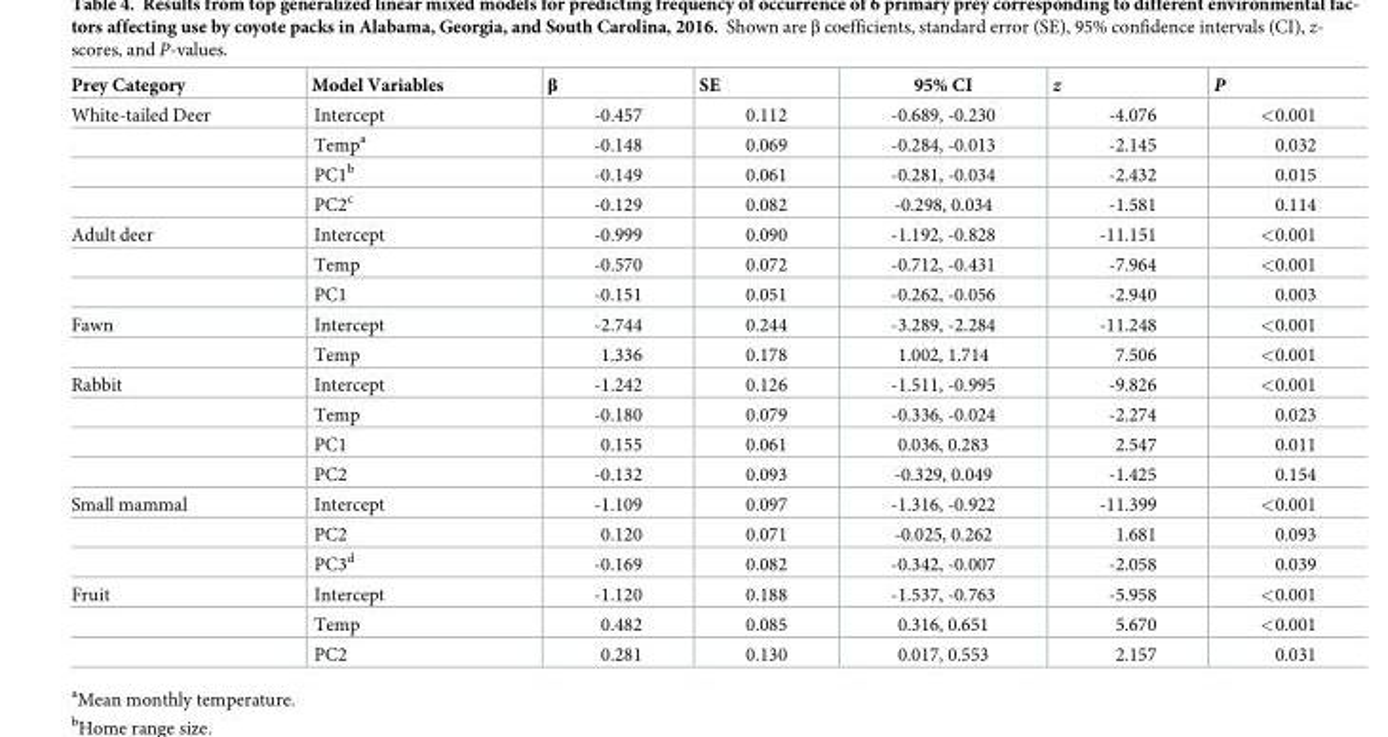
<table><thead><tr><td>Prey Category</td><td>Model Variables</td><td>β</td><td>SE</td><td>95% CI</td><td>z</td><td>P</td></tr></thead><tbody><tr><td rowspan="4">White-tailed Deer</td><td>Intercept</td><td>-0.457</td><td>0.112</td><td>-0.689, -0.230</td><td>-4.076</td><td>&lt;0.001</td></tr><tr><td>Temp<sup>a</sup></td><td>-0.148</td><td>0.069</td><td>-0.284, -0.013</td><td>-2.145</td><td>0.032</td></tr><tr><td>PC1<sup>b</sup></td><td>-0.149</td><td>0.061</td><td>-0.281, -0.034</td><td>-2.432</td><td>0.015</td></tr><tr><td>PC2<sup>c</sup></td><td>-0.129</td><td>0.082</td><td>-0.298, 0.034</td><td>-1.581</td><td>0.114</td></tr><tr><td rowspan="3">Adult deer</td><td>Intercept</td><td>-0.999</td><td>0.090</td><td>-1.192, -0.828</td><td>-11.151</td><td>&lt;0.001</td></tr><tr><td>Temp</td><td>-0.570</td><td>0.072</td><td>-0.712, -0.431</td><td>-7.964</td><td>&lt;0.001</td></tr><tr><td>PC1</td><td>-0.151</td><td>0.051</td><td>-0.262, -0.056</td><td>-2.940</td><td>0.003</td></tr><tr><td rowspan="2">Fawn</td><td>Intercept</td><td>-2.744</td><td>0.244</td><td>-3.289, -2.284</td><td>-11.248</td><td>&lt;0.001</td></tr><tr><td>Temp</td><td>1.336</td><td>0.178</td><td>1.002, 1.714</td><td>7.506</td><td>&lt;0.001</td></tr><tr><td rowspan="4">Rabbit</td><td>Intercept</td><td>-1.242</td><td>0.126</td><td>-1.511, -0.995</td><td>-9.826</td><td>&lt;0.001</td></tr><tr><td>Temp</td><td>-0.180</td><td>0.079</td><td>-0.336, -0.024</td><td>-2.274</td><td>0.023</td></tr><tr><td>PC1</td><td>0.155</td><td>0.061</td><td>0.036, 0.283</td><td>2.547</td><td>0.011</td></tr><tr><td>PC2</td><td>-0.132</td><td>0.093</td><td>-0.329, 0.049</td><td>-1.425</td><td>0.154</td></tr><tr><td rowspan="3">Small mammal</td><td>Intercept</td><td>-1.109</td><td>0.097</td><td>-1.316, -0.922</td><td>-11.399</td><td>&lt;0.001</td></tr><tr><td>PC2</td><td>0.120</td><td>0.071</td><td>-0.025, 0.262</td><td>1.681</td><td>0.093</td></tr><tr><td>PC3<sup>d</sup></td><td>-0.169</td><td>0.082</td><td>-0.342, -0.007</td><td>-2.058</td><td>0.039</td></tr><tr><td rowspan="3">Fruit</td><td>Intercept</td><td>-1.120</td><td>0.188</td><td>-1.537, -0.763</td><td>-5.958</td><td>&lt;0.001</td></tr><tr><td>Temp</td><td>0.482</td><td>0.085</td><td>0.316, 0.651</td><td>5.670</td><td>&lt;0.001</td></tr><tr><td>PC2</td><td>0.281</td><td>0.130</td><td>0.017, 0.553</td><td>2.157</td><td>0.031</td></tr></tbody></table>